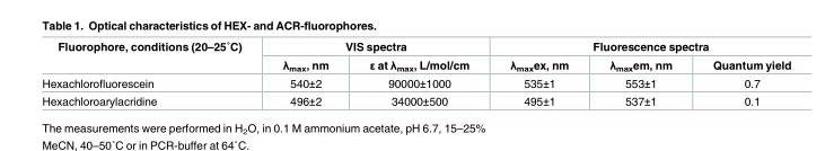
<table><thead><tr><td rowspan="2">Fluorophore, conditions (20–25˚C)</td><td colspan="2">VIS spectra</td><td colspan="3">Fluorescence spectra</td></tr><tr><td>λ<sub>max</sub>, nm</td><td>ε at λ<sub>max</sub>, L/mol/cm</td><td>λ<sub>max</sub>ex, nm</td><td>λ<sub>max</sub>em, nm</td><td>Quantum yield</td></tr></thead><tbody><tr><td>Hexachlorofluorescein</td><td>540±2</td><td>90000±1000</td><td>535±1</td><td>553±1</td><td>0.7</td></tr><tr><td>Hexachloroarylacridine</td><td>496±2</td><td>34000±500</td><td>495±1</td><td>537±1</td><td>0.1</td></tr></tbody></table>